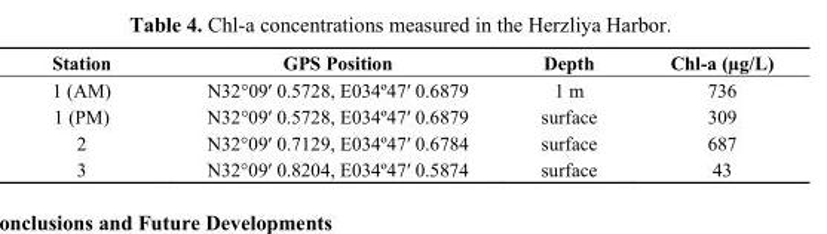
<table><thead><tr><td>Station</td><td>GPS Position</td><td>Depth</td><td>Chl-a (µg/L)</td></tr></thead><tbody><tr><td>1 (AM)</td><td>N32°09′ 0.5728, E034º47′ 0.6879</td><td>1 m</td><td>736</td></tr><tr><td>1 (PM)</td><td>N32°09′ 0.5728, E034º47′ 0.6879</td><td>surface</td><td>309</td></tr><tr><td>2</td><td>N32°09′ 0.7129, E034º47′ 0.6784</td><td>surface</td><td>687</td></tr><tr><td>3</td><td>N32°09′ 0.8204, E034º47′ 0.5874</td><td>surface</td><td>43</td></tr></tbody></table>